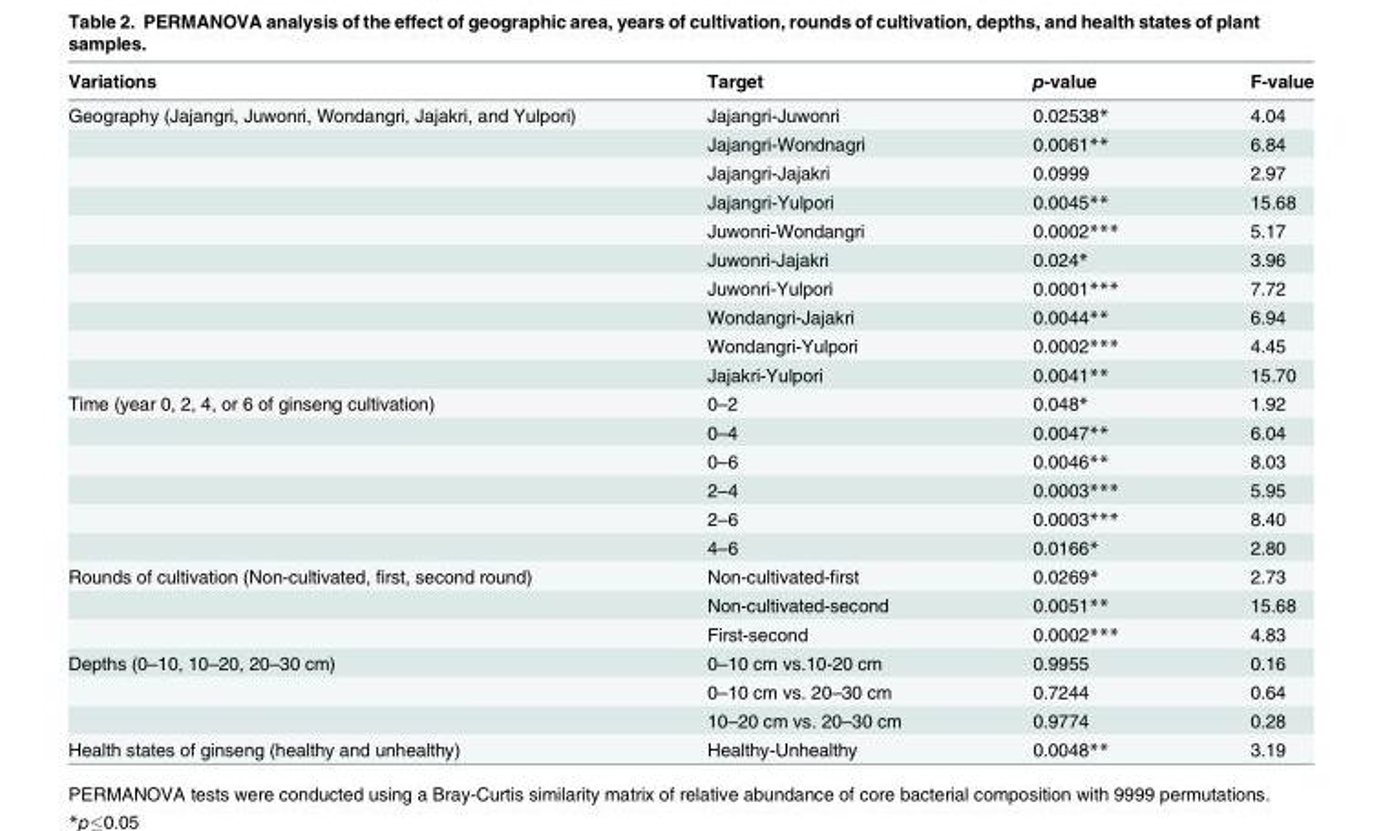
<table><thead><tr><td>Variations</td><td>Target</td><td>p-value</td><td>F-value</td></tr></thead><tbody><tr><td rowspan="10">Geography (Jajangri, Juwonri, Wondangri, Jajakri, and Yulpori)</td><td>Jajangri-Juwonri</td><td>0.02538*</td><td>4.04</td></tr><tr><td>Jajangri-Wondnagri</td><td>0.0061**</td><td>6.84</td></tr><tr><td>Jajangri-Jajakri</td><td>0.0999</td><td>2.97</td></tr><tr><td>Jajangri-Yulpori</td><td>0.0045**</td><td>15.68</td></tr><tr><td>Juwonri-Wondangri</td><td>0.0002***</td><td>5.17</td></tr><tr><td>Juwonri-Jajakri</td><td>0.024*</td><td>3.96</td></tr><tr><td>Juwonri-Yulpori</td><td>0.0001***</td><td>7.72</td></tr><tr><td>Wondangri-Jajakri</td><td>0.0044**</td><td>6.94</td></tr><tr><td>Wondangri-Yulpori</td><td>0.0002***</td><td>4.45</td></tr><tr><td>Jajakri-Yulpori</td><td>0.0041**</td><td>15.70</td></tr><tr><td rowspan="6">Time (year 0, 2, 4, or 6 of ginseng cultivation)</td><td>0–2</td><td>0.048*</td><td>1.92</td></tr><tr><td>0–4</td><td>0.0047**</td><td>6.04</td></tr><tr><td>0–6</td><td>0.0046**</td><td>8.03</td></tr><tr><td>2–4</td><td>0.0003***</td><td>5.95</td></tr><tr><td>2–6</td><td>0.0003***</td><td>8.40</td></tr><tr><td>4–6</td><td>0.0166*</td><td>2.80</td></tr><tr><td rowspan="3">Rounds of cultivation (Non-cultivated, first, second round)</td><td>Non-cultivated-first</td><td>0.0269*</td><td>2.73</td></tr><tr><td>Non-cultivated-second</td><td>0.0051**</td><td>15.68</td></tr><tr><td>First-second</td><td>0.0002***</td><td>4.83</td></tr><tr><td rowspan="3">Depths (0–10, 10–20, 20–30 cm)</td><td>0–10 cm vs.10-20 cm</td><td>0.9955</td><td>0.16</td></tr><tr><td>0–10 cm vs. 20–30 cm</td><td>0.7244</td><td>0.64</td></tr><tr><td>10–20 cm vs. 20–30 cm</td><td>0.9774</td><td>0.28</td></tr><tr><td>Health states of ginseng (healthy and unhealthy)</td><td>Healthy-Unhealthy</td><td>0.0048**</td><td>3.19</td></tr></tbody></table>